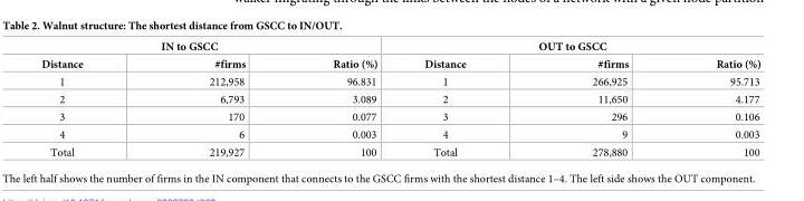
<table><thead><tr><td colspan="3">IN to GSCC</td><td colspan="3">OUT to GSCC</td></tr><tr><td>Distance</td><td>#firms</td><td>Ratio (%)</td><td>Distance</td><td>#firms</td><td>Ratio (%)</td></tr></thead><tbody><tr><td>1</td><td>212,958</td><td>96.831</td><td>1</td><td>266,925</td><td>95.713</td></tr><tr><td>2</td><td>6,793</td><td>3.089</td><td>2</td><td>11,650</td><td>4.177</td></tr><tr><td>3</td><td>170</td><td>0.077</td><td>3</td><td>296</td><td>0.106</td></tr><tr><td>4</td><td>6</td><td>0.003</td><td>4</td><td>9</td><td>0.003</td></tr><tr><td>Total</td><td>219,927</td><td>100</td><td>Total</td><td>278,880</td><td>100</td></tr></tbody></table>